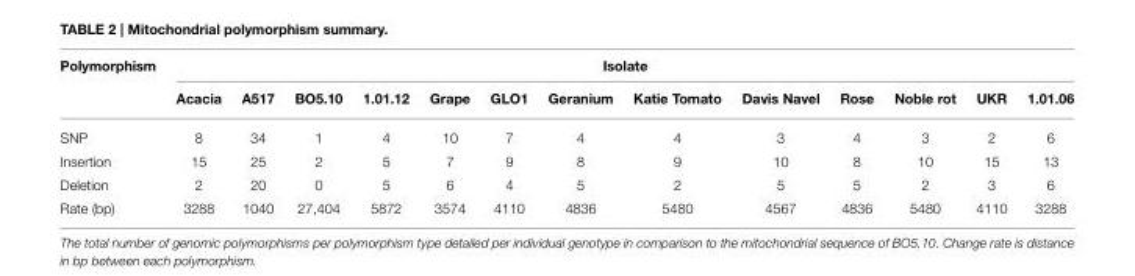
<table><thead><tr><td rowspan="2">Polymorphism</td><td colspan="13">Isolate</td></tr><tr><td>Acacia</td><td>A517</td><td>BO5.10</td><td>1.01.12</td><td>Grape</td><td>GLO1</td><td>Geranium</td><td>Katie Tomato</td><td>Davis Navel</td><td>Rose</td><td>Noble rot</td><td>UKR</td><td>1.01.06</td></tr></thead><tbody><tr><td>SNP</td><td>8</td><td>34</td><td>1</td><td>4</td><td>10</td><td>7</td><td>4</td><td>4</td><td>3</td><td>4</td><td>3</td><td>2</td><td>6</td></tr><tr><td>Insertion</td><td>15</td><td>25</td><td>2</td><td>5</td><td>7</td><td>9</td><td>8</td><td>9</td><td>10</td><td>8</td><td>10</td><td>15</td><td>13</td></tr><tr><td>Deletion</td><td>2</td><td>20</td><td>0</td><td>5</td><td>6</td><td>4</td><td>5</td><td>2</td><td>5</td><td>5</td><td>2</td><td>3</td><td>6</td></tr><tr><td>Rate (bp)</td><td>3288</td><td>1040</td><td>27,404</td><td>5872</td><td>3574</td><td>4110</td><td>4836</td><td>5480</td><td>4567</td><td>4836</td><td>5480</td><td>4110</td><td>3288</td></tr></tbody></table>